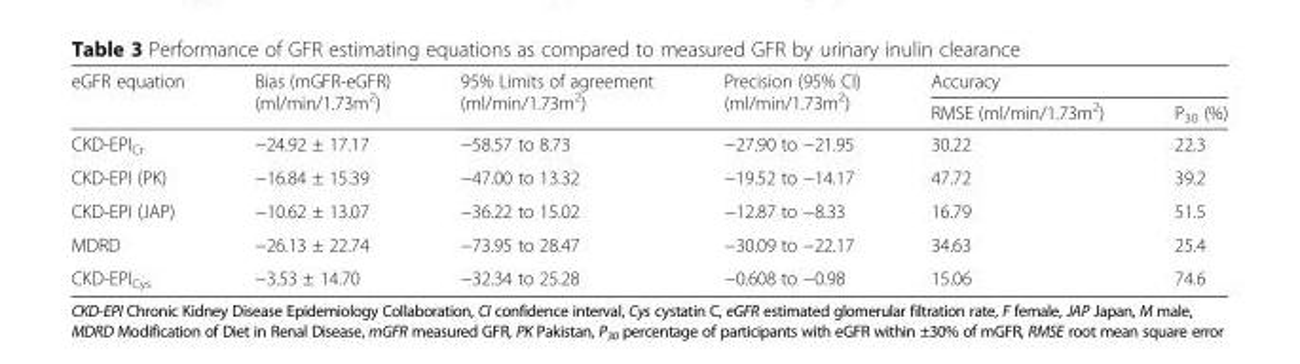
<table><thead><tr><td rowspan="2">eGFR equation</td><td rowspan="2">Bias (mGFR-eGFR) (ml/min/1.73m<sup>2</sup>)</td><td rowspan="2">95% Limits of agreement (ml/min/1.73m<sup>2</sup>)</td><td rowspan="2">Precision (95% CI) (ml/min/1.73m<sup>2</sup>)</td><td colspan="2">Accuracy</td></tr><tr><td>RMSE (ml/min/1.73m<sup>2</sup>)</td><td>P<sub>30</sub> (%)</td></tr></thead><tbody><tr><td>CKD-EPI<sub>Cr</sub></td><td>−24.92 ± 17.17</td><td>−58.57 to 8.73</td><td>−27.90 to −21.95</td><td>30.22</td><td>22.3</td></tr><tr><td>CKD-EPI (PK)</td><td>−16.84 ± 15.39</td><td>−47.00 to 13.32</td><td>−19.52 to −14.17</td><td>47.72</td><td>39.2</td></tr><tr><td>CKD-EPI (JAP)</td><td>−10.62 ± 13.07</td><td>−36.22 to 15.02</td><td>−12.87 to −8.33</td><td>16.79</td><td>51.5</td></tr><tr><td>MDRD</td><td>−26.13 ± 22.74</td><td>−73.95 to 28.47</td><td>−30.09 to −22.17</td><td>34.63</td><td>25.4</td></tr><tr><td>CKD-EPI<sub>Cys</sub></td><td>−3.53 ± 14.70</td><td>−32.34 to 25.28</td><td>−0.608 to −0.98</td><td>15.06</td><td>74.6</td></tr></tbody></table>